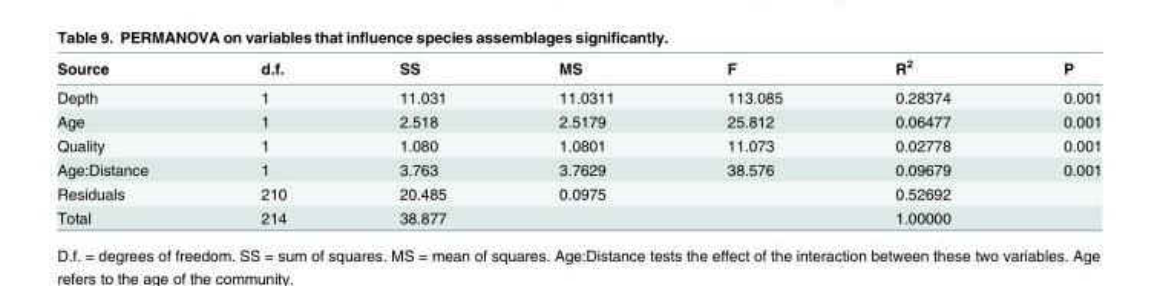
<table><thead><tr><td>Source</td><td>d.f.</td><td>SS</td><td>MS</td><td>F</td><td>R<sup>2</sup></td><td>P</td></tr></thead><tbody><tr><td>Depth</td><td>1</td><td>11.031</td><td>11.0311</td><td>113.085</td><td>0.28374</td><td>0.001</td></tr><tr><td>Age</td><td>1</td><td>2.518</td><td>2.5179</td><td>25.812</td><td>0.06477</td><td>0.001</td></tr><tr><td>Quality</td><td>1</td><td>1.080</td><td>1.0801</td><td>11.073</td><td>0.02778</td><td>0.001</td></tr><tr><td>Age:Distance</td><td>1</td><td>3.763</td><td>3.7629</td><td>38.576</td><td>0.09679</td><td>0.001</td></tr><tr><td>Residuals</td><td>210</td><td>20.485</td><td>0.0975</td><td></td><td>0.52692</td><td></td></tr><tr><td>Total</td><td>214</td><td>38.877</td><td></td><td></td><td>1.00000</td><td></td></tr></tbody></table>